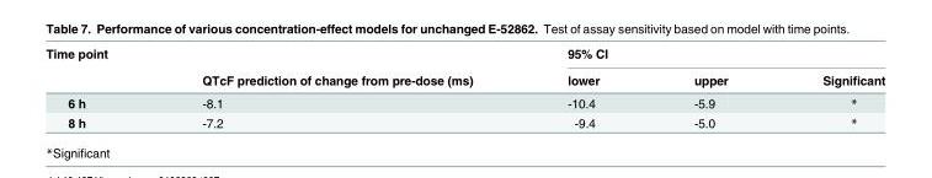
<table><thead><tr><td rowspan="2">Time point</td><td rowspan="2">QTcF prediction of change from pre-dose (ms)</td><td colspan="3">95% CI</td></tr><tr><td>lower</td><td>upper</td><td>Significant</td></tr></thead><tbody><tr><td>6 h</td><td>-8.1</td><td>-10.4</td><td>-5.9</td><td>*</td></tr><tr><td>8 h</td><td>-7.2</td><td>-9.4</td><td>-5.0</td><td>*</td></tr></tbody></table>